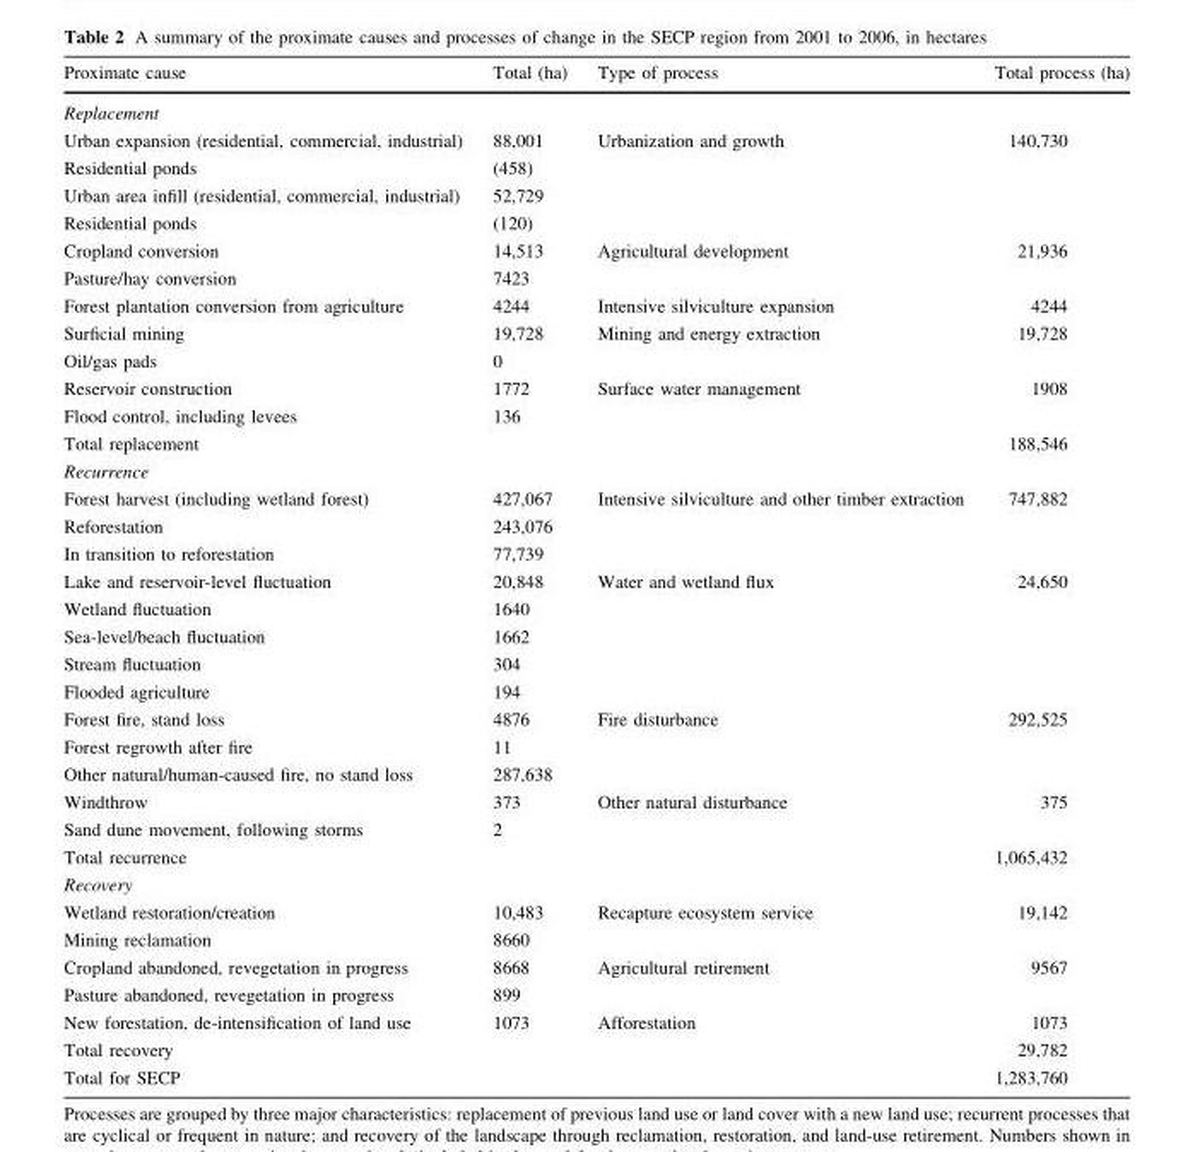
<table><thead><tr><td>Proximate cause</td><td>Total (ha)</td><td>Type of process</td><td>Total process (ha)</td></tr></thead><tbody><tr><td colspan="4">Replacement</td></tr><tr><td>Urban expansion (residential, commercial, industrial)</td><td>88,001</td><td>Urbanization and growth</td><td>140,730</td></tr><tr><td>Residential ponds</td><td>(458)</td><td></td><td></td></tr><tr><td>Urban area infill (residential, commercial, industrial)</td><td>52,729</td><td></td><td></td></tr><tr><td>Residential ponds</td><td>(120)</td><td></td><td></td></tr><tr><td>Cropland conversion</td><td>14,513</td><td>Agricultural development</td><td>21,936</td></tr><tr><td>Pasture/hay conversion</td><td>7423</td><td></td><td></td></tr><tr><td>Forest plantation conversion from agriculture</td><td>4244</td><td>Intensive silviculture expansion</td><td>4244</td></tr><tr><td>Surficial mining</td><td>19,728</td><td>Mining and energy extraction</td><td>19,728</td></tr><tr><td>Oil/gas pads</td><td>0</td><td></td><td></td></tr><tr><td>Reservoir construction</td><td>1772</td><td>Surface water management</td><td>1908</td></tr><tr><td>Flood control, including levees</td><td>136</td><td></td><td></td></tr><tr><td>Total replacement</td><td></td><td></td><td>188,546</td></tr><tr><td colspan="4">Recurrence</td></tr><tr><td>Forest harvest (including wetland forest)</td><td>427,067</td><td>Intensive silviculture and other timber extraction</td><td>747,882</td></tr><tr><td>Reforestation</td><td>243,076</td><td></td><td></td></tr><tr><td>In transition to reforestation</td><td>77,739</td><td></td><td></td></tr><tr><td>Lake and reservoir-level fluctuation</td><td>20,848</td><td>Water and wetland flux</td><td>24,650</td></tr><tr><td>Wetland fluctuation</td><td>1640</td><td></td><td></td></tr><tr><td>Sea-level/beach fluctuation</td><td>1662</td><td></td><td></td></tr><tr><td>Stream fluctuation</td><td>304</td><td></td><td></td></tr><tr><td>Flooded agriculture</td><td>194</td><td></td><td></td></tr><tr><td>Forest fire, stand loss</td><td>4876</td><td>Fire disturbance</td><td>292,525</td></tr><tr><td>Forest regrowth after fire</td><td>11</td><td></td><td></td></tr><tr><td>Other natural/human-caused fire, no stand loss</td><td>287,638</td><td></td><td></td></tr><tr><td>Windthrow</td><td>373</td><td>Other natural disturbance</td><td>375</td></tr><tr><td>Sand dune movement, following storms</td><td>2</td><td></td><td></td></tr><tr><td>Total recurrence</td><td></td><td></td><td>1,065,432</td></tr><tr><td colspan="4">Recovery</td></tr><tr><td>Wetland restoration/creation</td><td>10,483</td><td>Recapture ecosystem service</td><td>19,142</td></tr><tr><td>Mining reclamation</td><td>8660</td><td></td><td></td></tr><tr><td>Cropland abandoned, revegetation in progress</td><td>8668</td><td>Agricultural retirement</td><td>9567</td></tr><tr><td>Pasture abandoned, revegetation in progress</td><td>899</td><td></td><td></td></tr><tr><td>New forestation, de-intensification of land use</td><td>1073</td><td>Afforestation</td><td>1073</td></tr><tr><td>Total recovery</td><td></td><td></td><td>29,782</td></tr><tr><td>Total for SECP</td><td></td><td></td><td>1,283,760</td></tr></tbody></table>